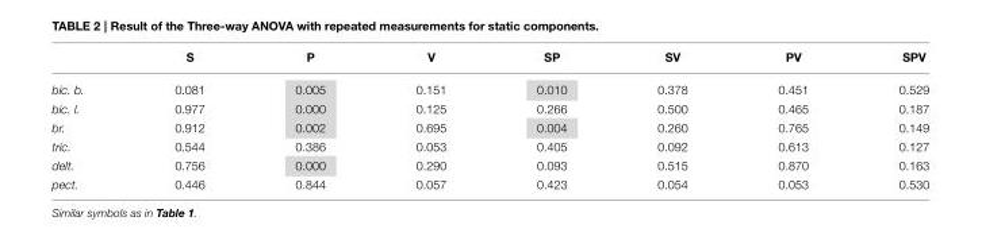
<table><thead><tr><td></td><td>S</td><td>P</td><td>V</td><td>SP</td><td>SV</td><td>PV</td><td>SPV</td></tr></thead><tbody><tr><td>bic. b.</td><td>0.081</td><td>0.005</td><td>0.151</td><td>0.010</td><td>0.378</td><td>0.451</td><td>0.529</td></tr><tr><td>bic. l.</td><td>0.977</td><td>0.000</td><td>0.125</td><td>0.266</td><td>0.500</td><td>0.465</td><td>0.187</td></tr><tr><td>br.</td><td>0.912</td><td>0.002</td><td>0.695</td><td>0.004</td><td>0.260</td><td>0.765</td><td>0.149</td></tr><tr><td>tric.</td><td>0.544</td><td>0.386</td><td>0.053</td><td>0.405</td><td>0.092</td><td>0.613</td><td>0.127</td></tr><tr><td>delt.</td><td>0.756</td><td>0.000</td><td>0.290</td><td>0.093</td><td>0.515</td><td>0.870</td><td>0.163</td></tr><tr><td>pect.</td><td>0.446</td><td>0.844</td><td>0.057</td><td>0.423</td><td>0.054</td><td>0.053</td><td>0.530</td></tr></tbody></table>